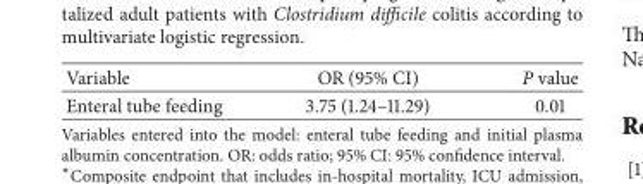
<table><thead><tr><td>Variable</td><td>OR (95% CI)</td><td>P value</td></tr></thead><tbody><tr><td>Enteral tube feeding</td><td>3.75 (1.24–11.29)</td><td>0.01</td></tr></tbody></table>